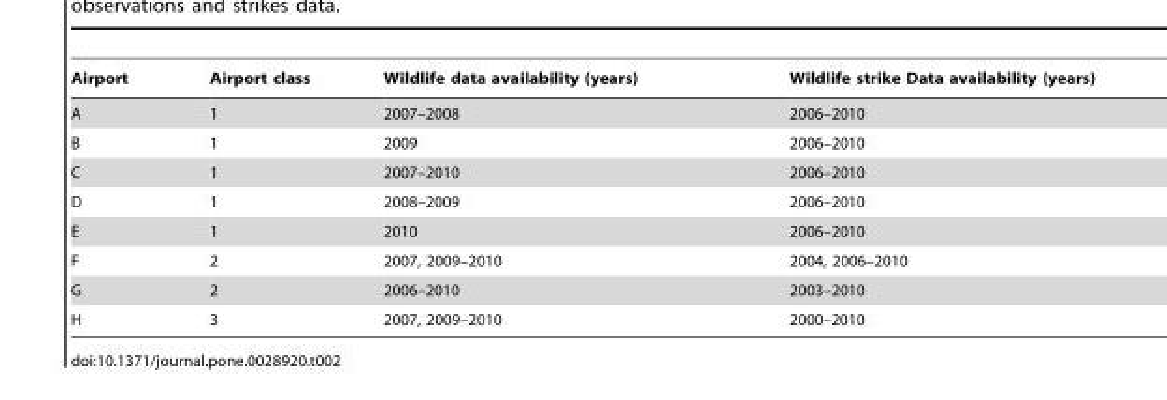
<table><thead><tr><td>Airport</td><td>Airport class</td><td>Wildlife data availability (years)</td><td>Wildlife strike Data availability (years)</td></tr></thead><tbody><tr><td>A</td><td>1</td><td>2007–2008</td><td>2006–2010</td></tr><tr><td>B</td><td>1</td><td>2009</td><td>2006–2010</td></tr><tr><td>C</td><td>1</td><td>2007–2010</td><td>2006–2010</td></tr><tr><td>D</td><td>1</td><td>2008–2009</td><td>2006–2010</td></tr><tr><td>E</td><td>1</td><td>2010</td><td>2006–2010</td></tr><tr><td>F</td><td>2</td><td>2007, 2009–2010</td><td>2004, 2006–2010</td></tr><tr><td>G</td><td>2</td><td>2006–2010</td><td>2003–2010</td></tr><tr><td>H</td><td>3</td><td>2007, 2009–2010</td><td>2000–2010</td></tr></tbody></table>